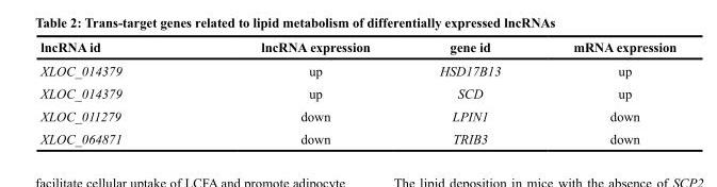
<table><thead><tr><td>lncRNA id</td><td>lncRNA expression</td><td>gene id</td><td>mRNA expression</td></tr></thead><tbody><tr><td>XLOC_014379</td><td>up</td><td>HSD17B13</td><td>up</td></tr><tr><td>XLOC_014379</td><td>up</td><td>SCD</td><td>up</td></tr><tr><td>XLOC_011279</td><td>down</td><td>LPIN1</td><td>down</td></tr><tr><td>XLOC_064871</td><td>down</td><td>TRIB3</td><td>down</td></tr></tbody></table>